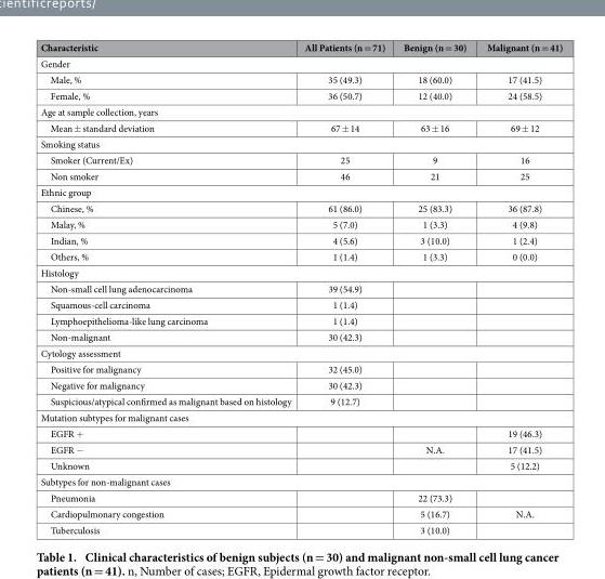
<table><thead><tr><td>Characteristic</td><td>All Patients (n = 71)</td><td>Benign (n = 30)</td><td>Malignant (n = 41)</td></tr></thead><tbody><tr><td colspan="4">Gender</td></tr><tr><td>Male, %</td><td>35 (49.3)</td><td>18 (60.0)</td><td>17 (41.5)</td></tr><tr><td>Female, %</td><td>36 (50.7)</td><td>12 (40.0)</td><td>24 (58.5)</td></tr><tr><td colspan="4">Age at sample collection, years</td></tr><tr><td>Mean ± standard deviation</td><td>67 ± 14</td><td>63 ± 16</td><td>69 ± 12</td></tr><tr><td colspan="4">Smoking status</td></tr><tr><td>Smoker (Current/Ex)</td><td>25</td><td>9</td><td>16</td></tr><tr><td>Non smoker</td><td>46</td><td>21</td><td>25</td></tr><tr><td colspan="4">Ethnic group</td></tr><tr><td>Chinese, %</td><td>61 (86.0)</td><td>25 (83.3)</td><td>36 (87.8)</td></tr><tr><td>Malay, %</td><td>5 (7.0)</td><td>1 (3.3)</td><td>4 (9.8)</td></tr><tr><td>Indian, %</td><td>4 (5.6)</td><td>3 (10.0)</td><td>1 (2.4)</td></tr><tr><td>Others, %</td><td>1 (1.4)</td><td>1 (3.3)</td><td>0 (0.0)</td></tr><tr><td colspan="4">Histology</td></tr><tr><td>Non-small cell lung adenocarcinoma</td><td>39 (54.9)</td><td></td><td></td></tr><tr><td>Squamous-cell carcinoma</td><td>1 (1.4)</td><td></td><td></td></tr><tr><td>Lymphoepithelioma-like lung carcinoma</td><td>1 (1.4)</td><td></td><td></td></tr><tr><td>Non-malignant</td><td>30 (42.3)</td><td></td><td></td></tr><tr><td colspan="4">Cytology assessment</td></tr><tr><td>Positive for malignancy</td><td>32 (45.0)</td><td></td><td></td></tr><tr><td>Negative for malignancy</td><td>30 (42.3)</td><td></td><td></td></tr><tr><td>Suspicious/atypical confirmed as malignant based on histology</td><td>9 (12.7)</td><td></td><td></td></tr><tr><td colspan="4">Mutation subtypes for malignant cases</td></tr><tr><td>EGFR +</td><td></td><td></td><td>19 (46.3)</td></tr><tr><td>EGFR −</td><td></td><td>N.A.</td><td>17 (41.5)</td></tr><tr><td>Unknown</td><td></td><td></td><td>5 (12.2)</td></tr><tr><td colspan="4">Subtypes for non-malignant cases</td></tr><tr><td>Pneumonia</td><td></td><td>22 (73.3)</td><td></td></tr><tr><td>Cardiopulmonary congestion</td><td></td><td>5 (16.7)</td><td>N.A.</td></tr><tr><td>Tuberculosis</td><td></td><td>3 (10.0)</td><td></td></tr></tbody></table>